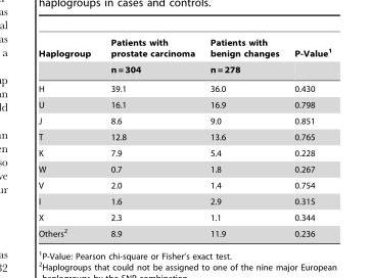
<table><thead><tr><td rowspan="2">Haplogroup</td><td rowspan="2">Patients with prostate carcinoma n = 304</td><td rowspan="2">Patients with benign changes n = 278</td><td rowspan="2">P-Value<sup>1</sup></td></tr><tr></tr></thead><tbody><tr><td>H</td><td>39.1</td><td>36.0</td><td>0.430</td></tr><tr><td>U</td><td>16.1</td><td>16.9</td><td>0.798</td></tr><tr><td>J</td><td>8.6</td><td>9.0</td><td>0.851</td></tr><tr><td>T</td><td>12.8</td><td>13.6</td><td>0.765</td></tr><tr><td>K</td><td>7.9</td><td>5.4</td><td>0.228</td></tr><tr><td>W</td><td>0.7</td><td>1.8</td><td>0.267</td></tr><tr><td>V</td><td>2.0</td><td>1.4</td><td>0.754</td></tr><tr><td>I</td><td>1.6</td><td>2.9</td><td>0.315</td></tr><tr><td>X</td><td>2.3</td><td>1.1</td><td>0.344</td></tr><tr><td>Others<sup>2</sup></td><td>8.9</td><td>11.9</td><td>0.236</td></tr></tbody></table>